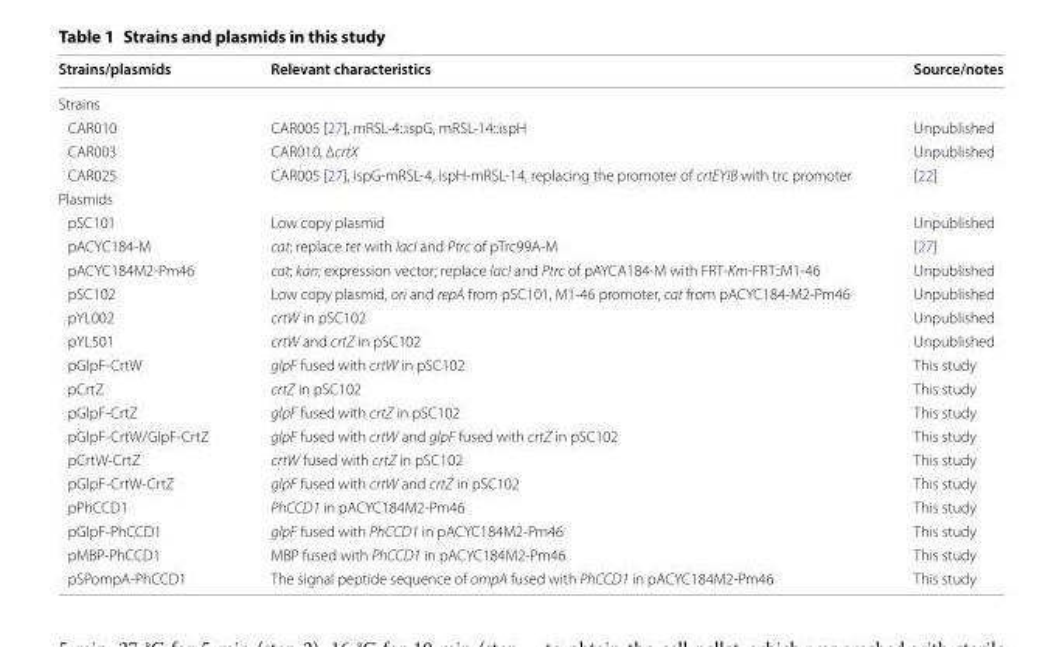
<table><thead><tr><td>Strains/plasmids</td><td>Relevant characteristics</td><td>Source/notes</td></tr></thead><tbody><tr><td colspan="3">Strains</td></tr><tr><td>CAR010</td><td>CAR005 [27], mRSL-4::ispG, mRSL-14::ispH</td><td>Unpublished</td></tr><tr><td>CAR003</td><td>CAR010, ∆crtX</td><td>Unpublished</td></tr><tr><td>CAR025</td><td>CAR005 [27], ispG-mRSL-4, ispH-mRSL-14, replacing the promoter of crtEYIB with trc promoter</td><td>[22]</td></tr><tr><td colspan="3">Plasmids</td></tr><tr><td>pSC101</td><td>Low copy plasmid</td><td>Unpublished</td></tr><tr><td>pACYC184-M</td><td>cat; replace tet with lacI and Ptrc of pTrc99A-M</td><td>[27]</td></tr><tr><td>pACYC184M2-Pm46</td><td>cat; kan; expression vector; replace lacI and Ptrc of pAYCA184-M with FRT-Km-FRT::M1-46</td><td>Unpublished</td></tr><tr><td>pSC102</td><td>Low copy plasmid, ori and repA from pSC101, M1-46 promoter, cat from pACYC184-M2-Pm46</td><td>Unpublished</td></tr><tr><td>pYL002</td><td>crtW in pSC102</td><td>Unpublished</td></tr><tr><td>pYL501</td><td>crtW and crtZ in pSC102</td><td>Unpublished</td></tr><tr><td>pGlpF-CrtW</td><td>glpF fused with crtW in pSC102</td><td>This study</td></tr><tr><td>pCrtZ</td><td>crtZ in pSC102</td><td>This study</td></tr><tr><td>pGlpF-CrtZ</td><td>glpF fused with crtZ in pSC102</td><td>This study</td></tr><tr><td>pGlpF-CrtW/GlpF-CrtZ</td><td>glpF fused with crtW and glpF fused with crtZ in pSC102</td><td>This study</td></tr><tr><td>pCrtW-CrtZ</td><td>crtW fused with crtZ in pSC102</td><td>This study</td></tr><tr><td>pGlpF-CrtW-CrtZ</td><td>glpF fused with crtW and crtZ in pSC102</td><td>This study</td></tr><tr><td>pPhCCD1</td><td>PhCCD1 in pACYC184M2-Pm46</td><td>This study</td></tr><tr><td>pGlpF-PhCCD1</td><td>glpF fused with PhCCD1 in pACYC184M2-Pm46</td><td>This study</td></tr><tr><td>pMBP-PhCCD1</td><td>MBP fused with PhCCD1 in pACYC184M2-Pm46</td><td>This study</td></tr><tr><td>pSPompA-PhCCD1</td><td>The signal peptide sequence of ompA fused with PhCCD1 in pACYC184M2-Pm46</td><td>This study</td></tr></tbody></table>